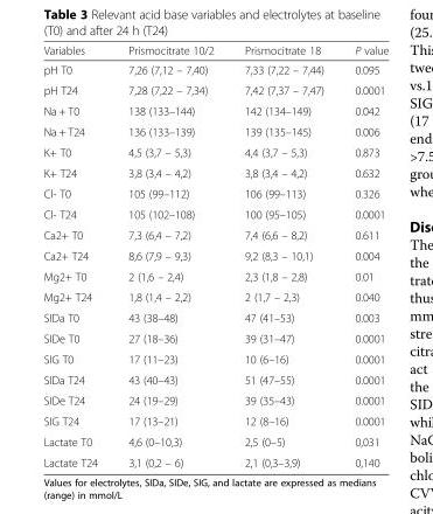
<table><thead><tr><td>Variables</td><td>Prismocitrate 10/2</td><td>Prismocitrate 18</td><td>P value</td></tr></thead><tbody><tr><td>pH T0</td><td>7,26 (7,12 – 7,40)</td><td>7,33 (7,22 – 7,44)</td><td>0.095</td></tr><tr><td>pH T24</td><td>7,28 (7,22 – 7,34)</td><td>7,42 (7,37 – 7,47)</td><td>0.0001</td></tr><tr><td>Na + T0</td><td>138 (133–144)</td><td>142 (134–149)</td><td>0.042</td></tr><tr><td>Na + T24</td><td>136 (133–139)</td><td>139 (135–145)</td><td>0.006</td></tr><tr><td>K+ T0</td><td>4,5 (3,7 – 5,3)</td><td>4,4 (3,7 – 5,3)</td><td>0.873</td></tr><tr><td>K+ T24</td><td>3,8 (3,4 – 4,2)</td><td>3,8 (3,4 – 4,2)</td><td>0.632</td></tr><tr><td>Cl- T0</td><td>105 (99–112)</td><td>106 (99–113)</td><td>0.326</td></tr><tr><td>Cl- T24</td><td>105 (102–108)</td><td>100 (95–105)</td><td>0.0001</td></tr><tr><td>Ca2+ T0</td><td>7,3 (6,4 – 7,2)</td><td>7,4 (6,6 – 8,2)</td><td>0.611</td></tr><tr><td>Ca2+ T24</td><td>8,6 (7,9 – 9,3)</td><td>9,2 (8,3 – 10,1)</td><td>0.004</td></tr><tr><td>Mg2+ T0</td><td>2 (1,6 – 2,4)</td><td>2,3 (1,8 – 2,8)</td><td>0.01</td></tr><tr><td>Mg2+ T24</td><td>1,8 (1,4 – 2,2)</td><td>2 (1,7 – 2,3)</td><td>0.040</td></tr><tr><td>SIDa T0</td><td>43 (38–48)</td><td>47 (41–53)</td><td>0.003</td></tr><tr><td>SIDe T0</td><td>27 (18–36)</td><td>39 (31–47)</td><td>0.0001</td></tr><tr><td>SIG T0</td><td>17 (11–23)</td><td>10 (6–16)</td><td>0.0001</td></tr><tr><td>SIDa T24</td><td>43 (40–43)</td><td>51 (47–55)</td><td>0.0001</td></tr><tr><td>SIDe T24</td><td>24 (19–29)</td><td>39 (35–43)</td><td>0.0001</td></tr><tr><td>SIG T24</td><td>17 (13–21)</td><td>12 (8–16)</td><td>0.0001</td></tr><tr><td>Lactate T0</td><td>4,6 (0–10,3)</td><td>2,5 (0–5)</td><td>0,031</td></tr><tr><td>Lactate T24</td><td>3,1 (0,2 – 6)</td><td>2,1 (0,3–3,9)</td><td>0,140</td></tr></tbody></table>